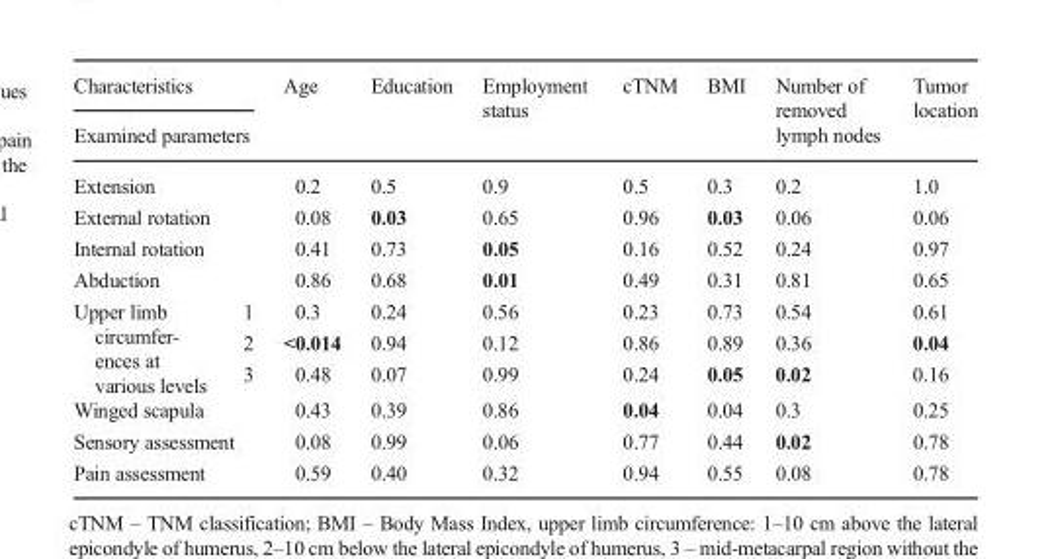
<table><thead><tr><td rowspan="2" colspan="2">Characteristics Examined parameters</td><td rowspan="2">Age</td><td rowspan="2">Education</td><td rowspan="2">Employment status</td><td rowspan="2">cTNM</td><td rowspan="2">BMI</td><td rowspan="2">Number of removed lymph nodes</td><td rowspan="2">Tumor location</td></tr><tr></tr></thead><tbody><tr><td colspan="2">Extension</td><td>0.2</td><td>0.5</td><td>0.9</td><td>0.5</td><td>0.3</td><td>0.2</td><td>1.0</td></tr><tr><td colspan="2">External rotation</td><td>0.08</td><td>0.03</td><td>0.65</td><td>0.96</td><td>0.03</td><td>0.06</td><td>0.06</td></tr><tr><td colspan="2">Internal rotation</td><td>0.41</td><td>0.73</td><td>0.05</td><td>0.16</td><td>0.52</td><td>0.24</td><td>0.97</td></tr><tr><td colspan="2">Abduction</td><td>0.86</td><td>0.68</td><td>0.01</td><td>0.49</td><td>0.31</td><td>0.81</td><td>0.65</td></tr><tr><td rowspan="3">Upper limb circumfer- ences at various levels</td><td>1</td><td>0.3</td><td>0.24</td><td>0.56</td><td>0.23</td><td>0.73</td><td>0.54</td><td>0.61</td></tr><tr><td>2</td><td>&lt;0.014</td><td>0.94</td><td>0.12</td><td>0.86</td><td>0.89</td><td>0.36</td><td>0.04</td></tr><tr><td>3</td><td>0.48</td><td>0.07</td><td>0.99</td><td>0.24</td><td>0.05</td><td>0.02</td><td>0.16</td></tr><tr><td colspan="2">Winged scapula</td><td>0.43</td><td>0.39</td><td>0.86</td><td>0.04</td><td>0.04</td><td>0.3</td><td>0.25</td></tr><tr><td colspan="2">Sensory assessment</td><td>0.08</td><td>0.99</td><td>0.06</td><td>0.77</td><td>0.44</td><td>0.02</td><td>0.78</td></tr><tr><td colspan="2">Pain assessment</td><td>0.59</td><td>0.40</td><td>0.32</td><td>0.94</td><td>0.55</td><td>0.08</td><td>0.78</td></tr></tbody></table>